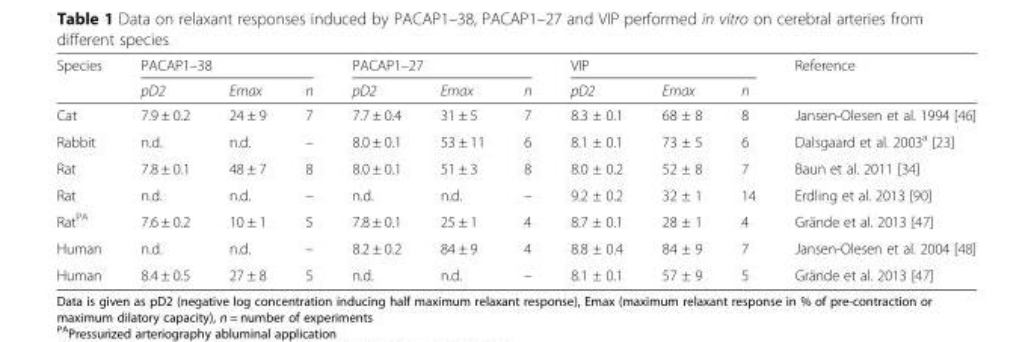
<table><thead><tr><td rowspan="2">Species</td><td colspan="3">PACAP1–38</td><td colspan="3">PACAP1–27</td><td colspan="3">VIP</td><td rowspan="2">Reference</td></tr><tr><td>pD2</td><td>Emax</td><td>n</td><td>pD2</td><td>Emax</td><td>n</td><td>pD2</td><td>Emax</td><td>n</td></tr></thead><tbody><tr><td>Cat</td><td>7.9 ± 0.2</td><td>24 ± 9</td><td>7</td><td>7.7 ± 0.4</td><td>31 ± 5</td><td>7</td><td>8.3 ± 0.1</td><td>68 ± 8</td><td>8</td><td>Jansen-Olesen et al. 1994 [46]</td></tr><tr><td>Rabbit</td><td>n.d.</td><td>n.d.</td><td>–</td><td>8.0 ± 0.1</td><td>53 ± 11</td><td>6</td><td>8.1 ± 0.1</td><td>73 ± 5</td><td>6</td><td>Dalsgaard et al. 2003<sup>a</sup> [23]</td></tr><tr><td>Rat</td><td>7.8 ± 0.1</td><td>48 ± 7</td><td>8</td><td>8.0 ± 0.1</td><td>51 ± 3</td><td>8</td><td>8.0 ± 0.2</td><td>52 ± 8</td><td>7</td><td>Baun et al. 2011 [34]</td></tr><tr><td>Rat</td><td>n.d.</td><td>n.d.</td><td>–</td><td>n.d.</td><td>n.d.</td><td>–</td><td>9.2 ± 0.2</td><td>32 ± 1</td><td>14</td><td>Erdling et al. 2013 [90]</td></tr><tr><td>Rat<sup>PA</sup></td><td>7.6 ± 0.2</td><td>10 ± 1</td><td>5</td><td>7.8 ± 0.1</td><td>25 ± 1</td><td>4</td><td>8.7 ± 0.1</td><td>28 ± 1</td><td>4</td><td>Grände et al. 2013 [47]</td></tr><tr><td>Human</td><td>n.d.</td><td>n.d.</td><td>–</td><td>8.2 ± 0.2</td><td>84 ± 9</td><td>4</td><td>8.8 ± 0.4</td><td>84 ± 9</td><td>7</td><td>Jansen-Olesen et al. 2004 [48]</td></tr><tr><td>Human</td><td>8.4 ± 0.5</td><td>27 ± 8</td><td>5</td><td>n.d.</td><td>n.d.</td><td>–</td><td>8.1 ± 0.1</td><td>57 ± 9</td><td>5</td><td>Grände et al. 2013 [47]</td></tr></tbody></table>